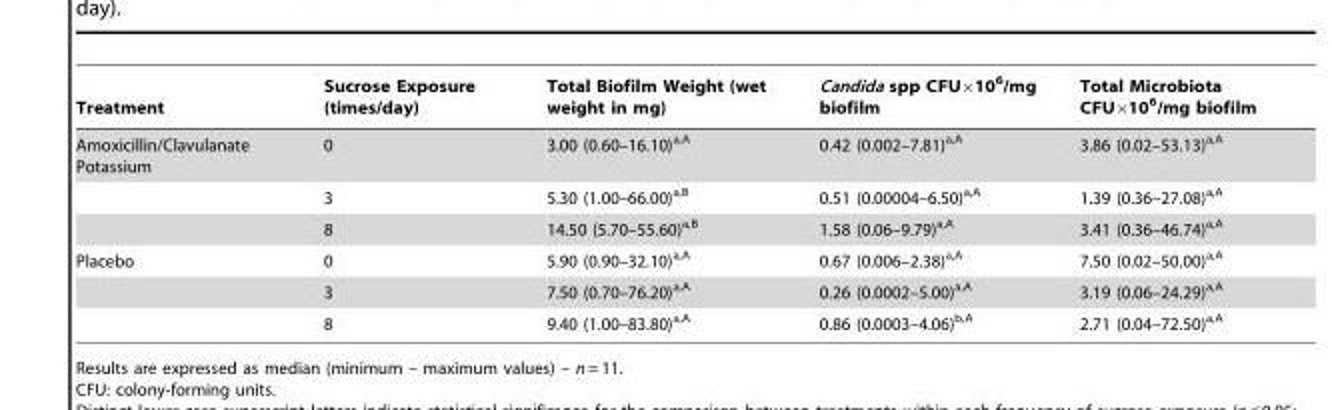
<table><thead><tr><td>Treatment</td><td>Sucrose Exposure (times/day)</td><td>Total Biofilm Weight (wet weight in mg)</td><td>Candida spp CFU×10<sup>6</sup>/mg biofilm</td><td>Total Microbiota CFU×10<sup>6</sup>/mg biofilm</td></tr></thead><tbody><tr><td rowspan="3">Amoxicillin/Clavulanate Potassium</td><td>0</td><td>3.00 (0.60–16.10)<sup>a,A</sup></td><td>0.42 (0.002–7.81)<sup>a,A</sup></td><td>3.86 (0.02–53.13)<sup>a,A</sup></td></tr><tr><td>3</td><td>5.30 (1.00–66.00)<sup>a,B</sup></td><td>0.51 (0.00004–6.50)<sup>a,A</sup></td><td>1.39 (0.36–27.08)<sup>a,A</sup></td></tr><tr><td>8</td><td>14.50 (5.70–55.60)<sup>a,B</sup></td><td>1.58 (0.06–9.79)<sup>a,A</sup></td><td>3.41 (0.36–46.74)<sup>a,A</sup></td></tr><tr><td rowspan="3">Placebo</td><td>0</td><td>5.90 (0.90–32.10)<sup>a,A</sup></td><td>0.67 (0.006–2.38)<sup>a,A</sup></td><td>7.50 (0.02–50.00)<sup>a,A</sup></td></tr><tr><td>3</td><td>7.50 (0.70–76.20)<sup>a,A</sup></td><td>0.26 (0.0002–5.00)<sup>a,A</sup></td><td>3.19 (0.06–24.29)<sup>a,A</sup></td></tr><tr><td>8</td><td>9.40 (1.00–83.80)<sup>a,A</sup></td><td>0.86 (0.0003–4.06)<sup>b,A</sup></td><td>2.71 (0.04–72.50)<sup>a,A</sup></td></tr></tbody></table>